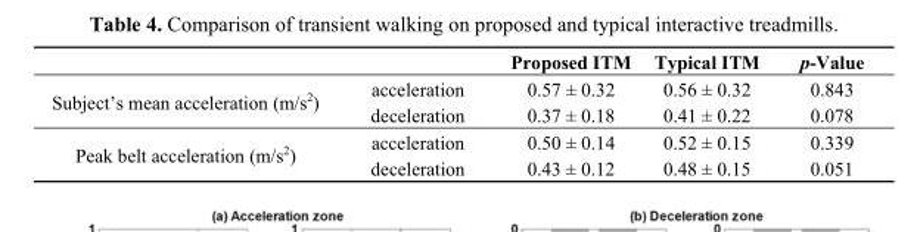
<table><thead><tr><td></td><td></td><td>Proposed ITM</td><td>Typical ITM</td><td>p-Value</td></tr></thead><tbody><tr><td rowspan="2">Subject’s mean acceleration (m/s<sup>2</sup>)</td><td>acceleration</td><td>0.57 ± 0.32</td><td>0.56 ± 0.32</td><td>0.843</td></tr><tr><td>deceleration</td><td>0.37 ± 0.18</td><td>0.41 ± 0.22</td><td>0.078</td></tr><tr><td rowspan="2">Peak belt acceleration (m/s<sup>2</sup>)</td><td>acceleration</td><td>0.50 ± 0.14</td><td>0.52 ± 0.15</td><td>0.339</td></tr><tr><td>deceleration</td><td>0.43 ± 0.12</td><td>0.48 ± 0.15</td><td>0.051</td></tr></tbody></table>